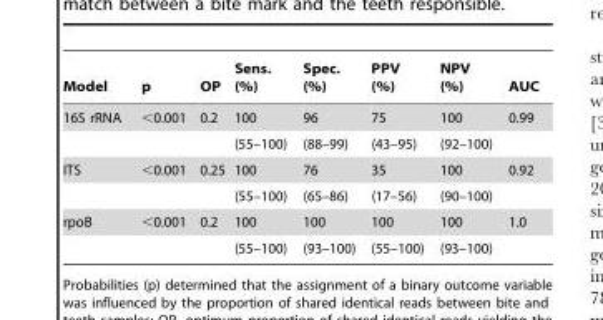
<table><thead><tr><td>Model</td><td>p</td><td>OP</td><td>Sens. (%)</td><td>Spec. (%)</td><td>PPV (%)</td><td>NPV (%)</td><td>AUC</td></tr></thead><tbody><tr><td rowspan="2">16S rRNA</td><td>&lt;0.001</td><td>0.2</td><td>100</td><td>96</td><td>75</td><td>100</td><td>0.99</td></tr><tr><td></td><td></td><td>(55–100)</td><td>(88–99)</td><td>(43–95)</td><td>(92–100)</td><td></td></tr><tr><td rowspan="2">ITS</td><td>&lt;0.001</td><td>0.25</td><td>100</td><td>76</td><td>35</td><td>100</td><td>0.92</td></tr><tr><td></td><td></td><td>(55–100)</td><td>(65–86)</td><td>(17–56)</td><td>(90–100)</td><td></td></tr><tr><td rowspan="2">rpoB</td><td>&lt;0.001</td><td>0.2</td><td>100</td><td>100</td><td>100</td><td>100</td><td>1.0</td></tr><tr><td></td><td></td><td>(55–100)</td><td>(93–100)</td><td>(55–100)</td><td>(93–100)</td><td></td></tr></tbody></table>